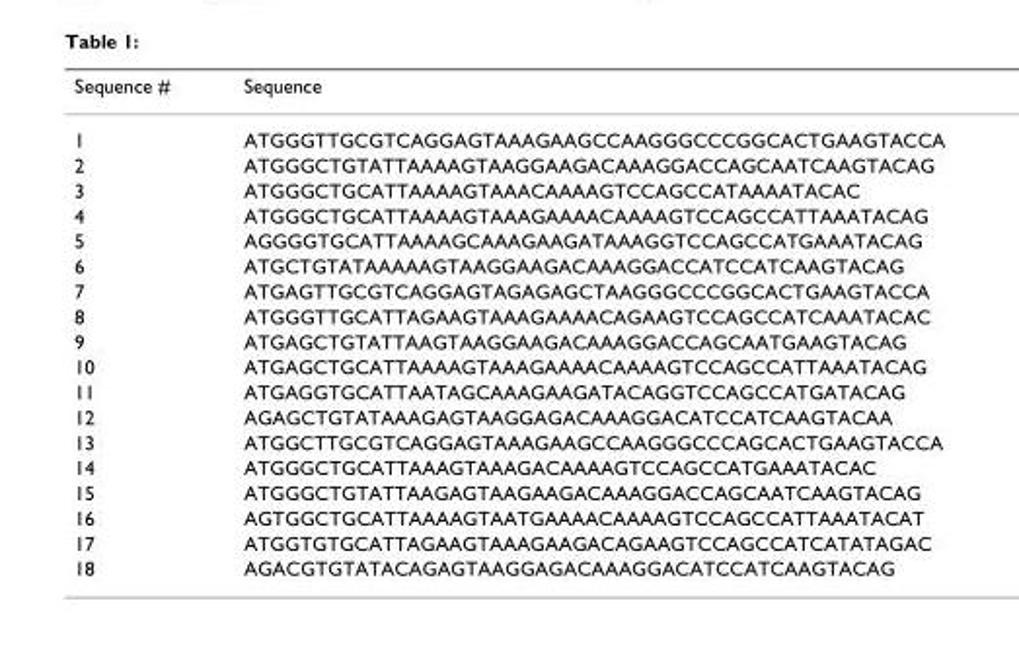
<table><thead><tr><td>Sequence #</td><td>Sequence</td></tr></thead><tbody><tr><td>1</td><td>ATGGGTTGCGTCAGGAGTAAAGAAGCCAAGGGCCCGGCACTGAAGTACCA</td></tr><tr><td>2</td><td>ATGGGCTGTATTAAAAGTAAGGAAGACAAAGGACCAGCAATCAAGTACAG</td></tr><tr><td>3</td><td>ATGGGCTGCATTAAAAGTAAACAAAAGTCCAGCCATAAAATACAC</td></tr><tr><td>4</td><td>ATGGGCTGCATTAAAAGTAAAGAAAACAAAAGTCCAGCCATTAAATACAG</td></tr><tr><td>5</td><td>AGGGGTGCATTAAAAGCAAAGAAGATAAAGGTCCAGCCATGAAATACAG</td></tr><tr><td>6</td><td>ATGCTGTATAAAAAGTAAGGAAGACAAAGGACCATCCATCAAGTACAG</td></tr><tr><td>7</td><td>ATGAGTTGCGTCAGGAGTAGAGAGCTAAGGGCCCGGCACTGAAGTACCA</td></tr><tr><td>8</td><td>ATGGGTTGCATTAGAAGTAAAGAAAACAGAAGTCCAGCCATCAAATACAC</td></tr><tr><td>9</td><td>ATGAGCTGTATTAAGTAAGGAAGACAAAGGACCAGCAATGAAGTACAG</td></tr><tr><td>10</td><td>ATGAGCTGCATTAAAAGTAAAGAAAACAAAAGTCCAGCCATTAAATACAG</td></tr><tr><td>11</td><td>ATGAGGTGCATTAATAGCAAAGAAGATACAGGTCCAGCCATGATACAG</td></tr><tr><td>12</td><td>AGAGCTGTATAAAGAGTAAGGAGACAAAGGACATCCATCAAGTACAA</td></tr><tr><td>13</td><td>ATGGCTTGCGTCAGGAGTAAAGAAGCCAAGGGCCCAGCACTGAAGTACCA</td></tr><tr><td>14</td><td>ATGGGCTGCATTAAAGTAAAGACAAAAGTCCAGCCATGAAATACAC</td></tr><tr><td>15</td><td>ATGGGCTGTATTAAGAGTAAGAAGACAAAGGACCAGCAATCAAGTACAG</td></tr><tr><td>16</td><td>AGTGGCTGCATTAAAAGTAATGAAAACAAAAGTCCAGCCATTAAATACAT</td></tr><tr><td>17</td><td>ATGGTGTGCATTAGAAGTAAAGAAGACAGAAGTCCAGCCATCATATAGAC</td></tr><tr><td>18</td><td>AGACGTGTATACAGAGTAAGGAGACAAAGGACATCCATCAAGTACAG</td></tr></tbody></table>